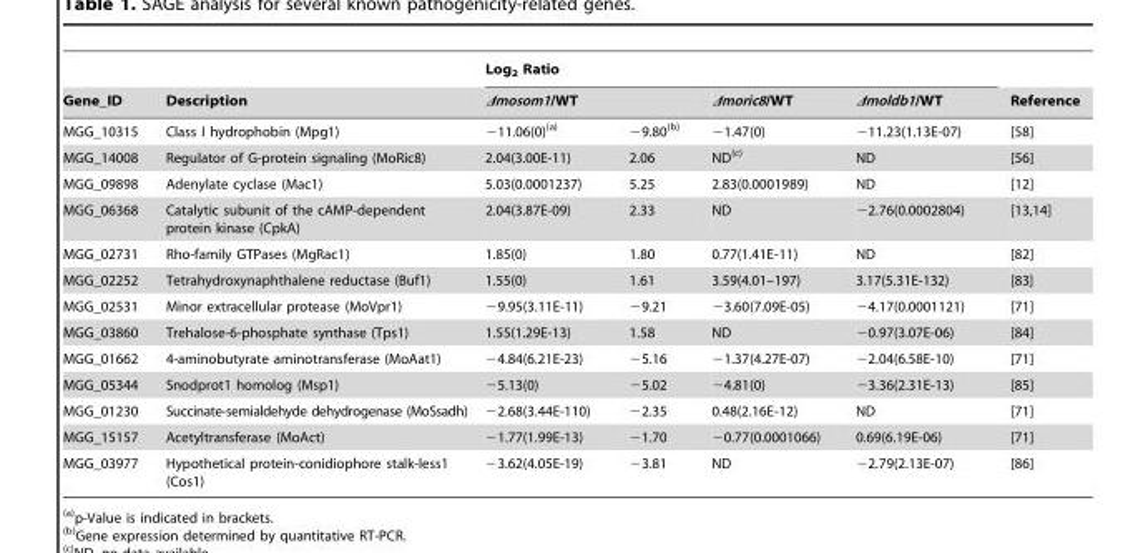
<table><thead><tr><td rowspan="3">Gene_ID MGG_10315</td><td rowspan="3">Description Class I hydrophobin (Mpg1)</td><td colspan="4">Log<sub>2</sub> Ratio</td><td rowspan="3">Reference [58]</td></tr><tr><td colspan="2">Δmosom1/WT</td><td rowspan="2">Δmoric8/WT −1.47(0)</td><td rowspan="2">Δmoldb1/WT −11.23(1.13E-07)</td></tr><tr><td>−11.06(0)(a)</td><td>−9.80(b)</td></tr></thead><tbody><tr><td>MGG_14008</td><td>Regulator of G-protein signaling (MoRic8)</td><td>2.04(3.00E-11)</td><td>2.06</td><td>ND(c)</td><td>ND</td><td>[56]</td></tr><tr><td>MGG_09898</td><td>Adenylate cyclase (Mac1)</td><td>5.03(0.0001237)</td><td>5.25</td><td>2.83(0.0001989)</td><td>ND</td><td>[12]</td></tr><tr><td>MGG_06368</td><td>Catalytic subunit of the cAMP-dependent protein kinase (CpkA)</td><td>2.04(3.87E-09)</td><td>2.33</td><td>ND</td><td>−2.76(0.0002804)</td><td>[13,14]</td></tr><tr><td>MGG_02731</td><td>Rho-family GTPases (MgRac1)</td><td>1.85(0)</td><td>1.80</td><td>0.77(1.41E-11)</td><td>ND</td><td>[82]</td></tr><tr><td>MGG_02252</td><td>Tetrahydroxynaphthalene reductase (Buf1)</td><td>1.55(0)</td><td>1.61</td><td>3.59(4.01–197)</td><td>3.17(5.31E-132)</td><td>[83]</td></tr><tr><td>MGG_02531</td><td>Minor extracellular protease (MoVpr1)</td><td>−9.95(3.11E-11)</td><td>−9.21</td><td>−3.60(7.09E-05)</td><td>−4.17(0.0001121)</td><td>[71]</td></tr><tr><td>MGG_03860</td><td>Trehalose-6-phosphate synthase (Tps1)</td><td>1.55(1.29E-13)</td><td>1.58</td><td>ND</td><td>−0.97(3.07E-06)</td><td>[84]</td></tr><tr><td>MGG_01662</td><td>4-aminobutyrate aminotransferase (MoAat1)</td><td>−4.84(6.21E-23)</td><td>−5.16</td><td>−1.37(4.27E-07)</td><td>−2.04(6.58E-10)</td><td>[71]</td></tr><tr><td>MGG_05344</td><td>Snodprot1 homolog (Msp1)</td><td>−5.13(0)</td><td>−5.02</td><td>−4.81(0)</td><td>−3.36(2.31E-13)</td><td>[85]</td></tr><tr><td>MGG_01230</td><td>Succinate-semialdehyde dehydrogenase (MoSsadh)</td><td>−2.68(3.44E-110)</td><td>−2.35</td><td>0.48(2.16E-12)</td><td>ND</td><td>[71]</td></tr><tr><td>MGG_15157</td><td>Acetyltransferase (MoAct)</td><td>−1.77(1.99E-13)</td><td>−1.70</td><td>−0.77(0.0001066)</td><td>0.69(6.19E-06)</td><td>[71]</td></tr><tr><td>MGG_03977</td><td>Hypothetical protein-conidiophore stalk-less1 (Cos1)</td><td>−3.62(4.05E-19)</td><td>−3.81</td><td>ND</td><td>−2.79(2.13E-07)</td><td>[86]</td></tr></tbody></table>